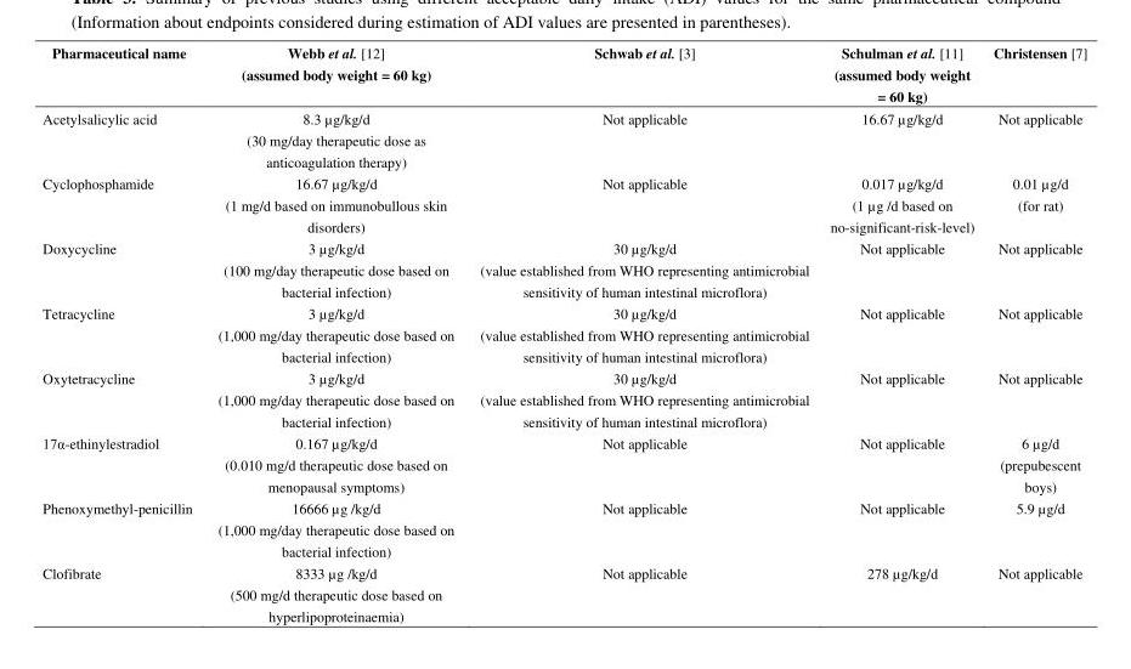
<table><thead><tr><td>Pharmaceutical name</td><td>Webb et al. [12] (assumed body weight = 60 kg)</td><td>Schwab et al. [3]</td><td>Schulman et al. [11] (assumed body weight = 60 kg)</td><td>Christensen [7]</td></tr></thead><tbody><tr><td>Acetylsalicylic acid</td><td>8.3 µg/kg/d (30 mg/day therapeutic dose as anticoagulation therapy)</td><td>Not applicable</td><td>16.67 µg/kg/d</td><td>Not applicable</td></tr><tr><td>Cyclophosphamide</td><td>16.67 µg/kg/d (1 mg/d based on immunobullous skin disorders)</td><td>Not applicable</td><td>0.017 µg/kg/d (1 µg /d based on no-significant-risk-level)</td><td>0.01 µg/d (for rat)</td></tr><tr><td>Doxycycline</td><td>3 µg/kg/d (100 mg/day therapeutic dose based on bacterial infection)</td><td>30 µg/kg/d (value established from WHO representing antimicrobial sensitivity of human intestinal microflora)</td><td>Not applicable</td><td>Not applicable</td></tr><tr><td>Tetracycline</td><td>3 µg/kg/d (1,000 mg/day therapeutic dose based on bacterial infection)</td><td>30 µg/kg/d (value established from WHO representing antimicrobial sensitivity of human intestinal microflora)</td><td>Not applicable</td><td>Not applicable</td></tr><tr><td>Oxytetracycline</td><td>3 µg/kg/d (1,000 mg/day therapeutic dose based on bacterial infection)</td><td>30 µg/kg/d (value established from WHO representing antimicrobial sensitivity of human intestinal microflora)</td><td>Not applicable</td><td>Not applicable</td></tr><tr><td>17α-ethinylestradiol</td><td>0.167 µg/kg/d (0.010 mg/d therapeutic dose based on menopausal symptoms)</td><td>Not applicable</td><td>Not applicable</td><td>6 µg/d (prepubescent boys)</td></tr><tr><td>Phenoxymethyl-penicillin</td><td>16666 µg /kg/d (1,000 mg/day therapeutic dose based on bacterial infection)</td><td>Not applicable</td><td>Not applicable</td><td>5.9 µg/d</td></tr><tr><td>Clofibrate</td><td>8333 µg /kg/d (500 mg/d therapeutic dose based on hyperlipoproteinaemia)</td><td>Not applicable</td><td>278 µg/kg/d</td><td>Not applicable</td></tr></tbody></table>